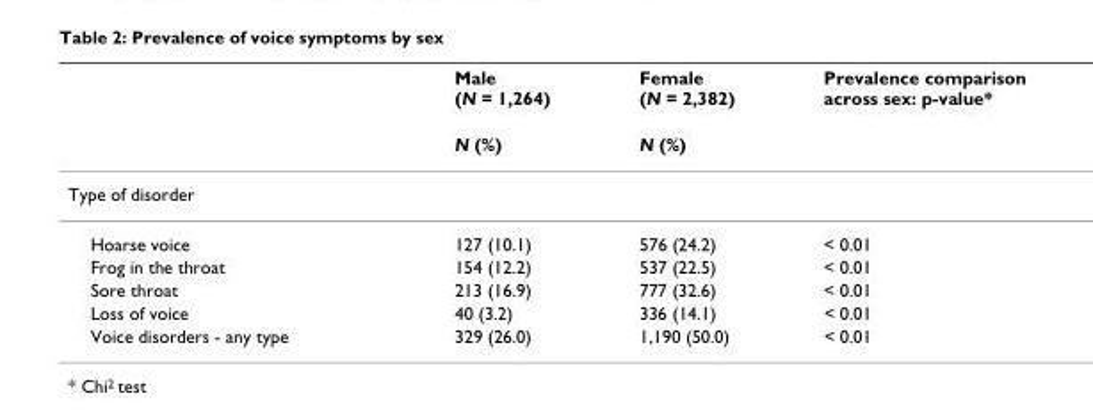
<table><thead><tr><td rowspan="2"></td><td rowspan="2">Male (N = 1,264) N (%)</td><td rowspan="2">Female (N = 2,382) N (%)</td><td rowspan="2">Prevalence comparison across sex: p-value*</td></tr><tr></tr></thead><tbody><tr><td colspan="4">Type of disorder</td></tr><tr><td>Hoarse voice</td><td>127 (10.1)</td><td>576 (24.2)</td><td>&lt; 0.01</td></tr><tr><td>Frog in the throat</td><td>154 (12.2)</td><td>537 (22.5)</td><td>&lt; 0.01</td></tr><tr><td>Sore throat</td><td>213 (16.9)</td><td>777 (32.6)</td><td>&lt; 0.01</td></tr><tr><td>Loss of voice</td><td>40 (3.2)</td><td>336 (14.1)</td><td>&lt; 0.01</td></tr><tr><td>Voice disorders - any type</td><td>329 (26.0)</td><td>1,190 (50.0)</td><td>&lt; 0.01</td></tr></tbody></table>